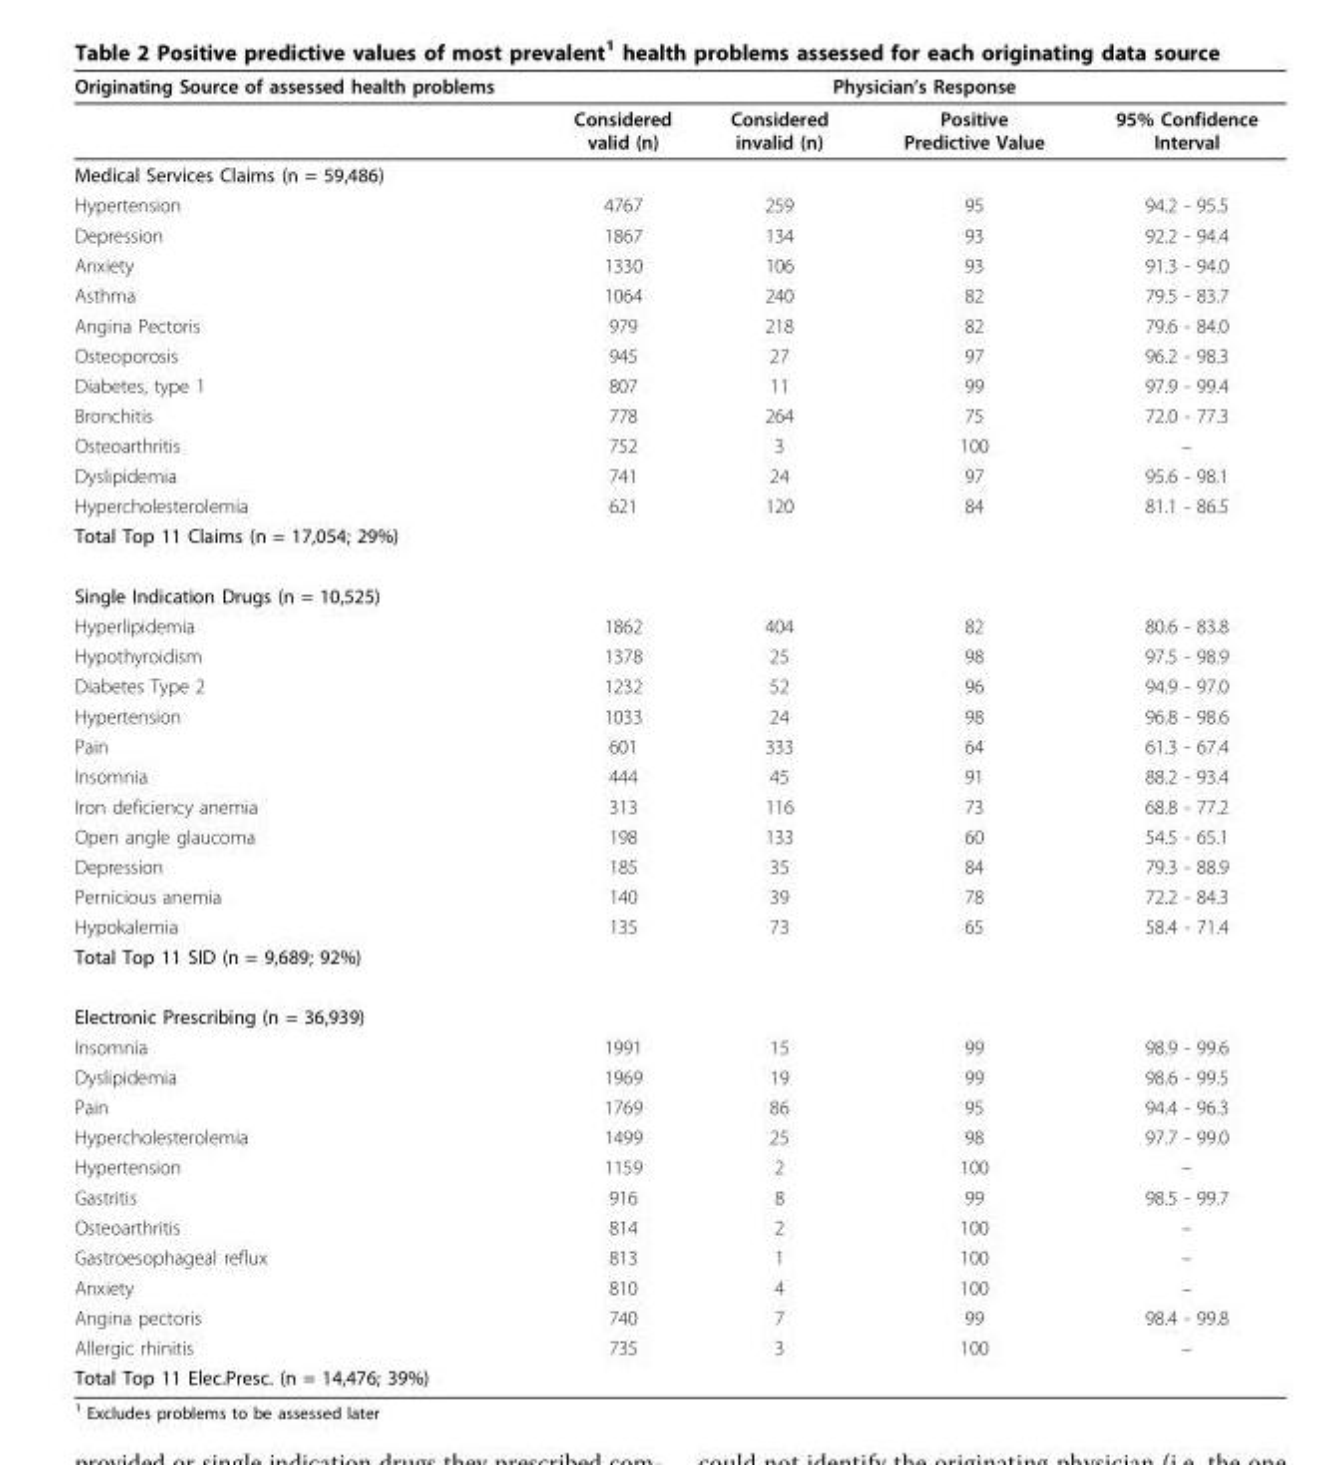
<table><thead><tr><td rowspan="2">Originating Source of assessed health problems</td><td colspan="4">Physician’s Response</td></tr><tr><td>Considered valid (n)</td><td>Considered invalid (n)</td><td>Positive Predictive Value</td><td>95% Confidence Interval</td></tr></thead><tbody><tr><td colspan="5">Medical Services Claims (n = 59,486)</td></tr><tr><td>Hypertension</td><td>4767</td><td>259</td><td>95</td><td>94.2 - 95.5</td></tr><tr><td>Depression</td><td>1867</td><td>134</td><td>93</td><td>92.2 - 94.4</td></tr><tr><td>Anxiety</td><td>1330</td><td>106</td><td>93</td><td>91.3 - 94.0</td></tr><tr><td>Asthma</td><td>1064</td><td>240</td><td>82</td><td>79.5 - 83.7</td></tr><tr><td>Angina Pectoris</td><td>979</td><td>218</td><td>82</td><td>79.6 - 84.0</td></tr><tr><td>Osteoporosis</td><td>945</td><td>27</td><td>97</td><td>96.2 - 98.3</td></tr><tr><td>Diabetes, type 1</td><td>807</td><td>11</td><td>99</td><td>97.9 - 99.4</td></tr><tr><td>Bronchitis</td><td>778</td><td>264</td><td>75</td><td>72.0 - 77.3</td></tr><tr><td>Osteoarthritis</td><td>752</td><td>3</td><td>100</td><td>–</td></tr><tr><td>Dyslipidemia</td><td>741</td><td>24</td><td>97</td><td>95.6 - 98.1</td></tr><tr><td>Hypercholesterolemia</td><td>621</td><td>120</td><td>84</td><td>81.1 - 86.5</td></tr><tr><td colspan="5">Total Top 11 Claims (n = 17,054; 29%)</td></tr><tr><td colspan="5">Single Indication Drugs (n = 10,525)</td></tr><tr><td>Hyperlipidemia</td><td>1862</td><td>404</td><td>82</td><td>80.6 - 83.8</td></tr><tr><td>Hypothyroidism</td><td>1378</td><td>25</td><td>98</td><td>97.5 - 98.9</td></tr><tr><td>Diabetes Type 2</td><td>1232</td><td>52</td><td>96</td><td>94.9 - 97.0</td></tr><tr><td>Hypertension</td><td>1033</td><td>24</td><td>98</td><td>96.8 - 98.6</td></tr><tr><td>Pain</td><td>601</td><td>333</td><td>64</td><td>61.3 - 67.4</td></tr><tr><td>Insomnia</td><td>444</td><td>45</td><td>91</td><td>88.2 - 93.4</td></tr><tr><td>Iron deficiency anemia</td><td>313</td><td>116</td><td>73</td><td>68.8 - 77.2</td></tr><tr><td>Open angle glaucoma</td><td>198</td><td>133</td><td>60</td><td>54.5 - 65.1</td></tr><tr><td>Depression</td><td>185</td><td>35</td><td>84</td><td>79.3 - 88.9</td></tr><tr><td>Pernicious anemia</td><td>140</td><td>39</td><td>78</td><td>72.2 - 84.3</td></tr><tr><td>Hypokalemia</td><td>135</td><td>73</td><td>65</td><td>58.4 - 71.4</td></tr><tr><td colspan="5">Total Top 11 SID (n = 9,689; 92%)</td></tr><tr><td colspan="5">Electronic Prescribing (n = 36,939)</td></tr><tr><td>Insomnia</td><td>1991</td><td>15</td><td>99</td><td>98.9 - 99.6</td></tr><tr><td>Dyslipidemia</td><td>1969</td><td>19</td><td>99</td><td>98.6 - 99.5</td></tr><tr><td>Pain</td><td>1769</td><td>86</td><td>95</td><td>94.4 - 96.3</td></tr><tr><td>Hypercholesterolemia</td><td>1499</td><td>25</td><td>98</td><td>97.7 - 99.0</td></tr><tr><td>Hypertension</td><td>1159</td><td>2</td><td>100</td><td>–</td></tr><tr><td>Gastritis</td><td>916</td><td>8</td><td>99</td><td>98.5 - 99.7</td></tr><tr><td>Osteoarthritis</td><td>814</td><td>2</td><td>100</td><td>–</td></tr><tr><td>Gastroesophageal reflux</td><td>813</td><td>1</td><td>100</td><td>–</td></tr><tr><td>Anxiety</td><td>810</td><td>4</td><td>100</td><td>–</td></tr><tr><td>Angina pectoris</td><td>740</td><td>7</td><td>99</td><td>98.4 - 99.8</td></tr><tr><td>Allergic rhinitis</td><td>735</td><td>3</td><td>100</td><td>–</td></tr><tr><td>Total Top 11 Elec.Presc. (n = 14,476; 39%)</td><td></td><td></td><td></td><td></td></tr></tbody></table>